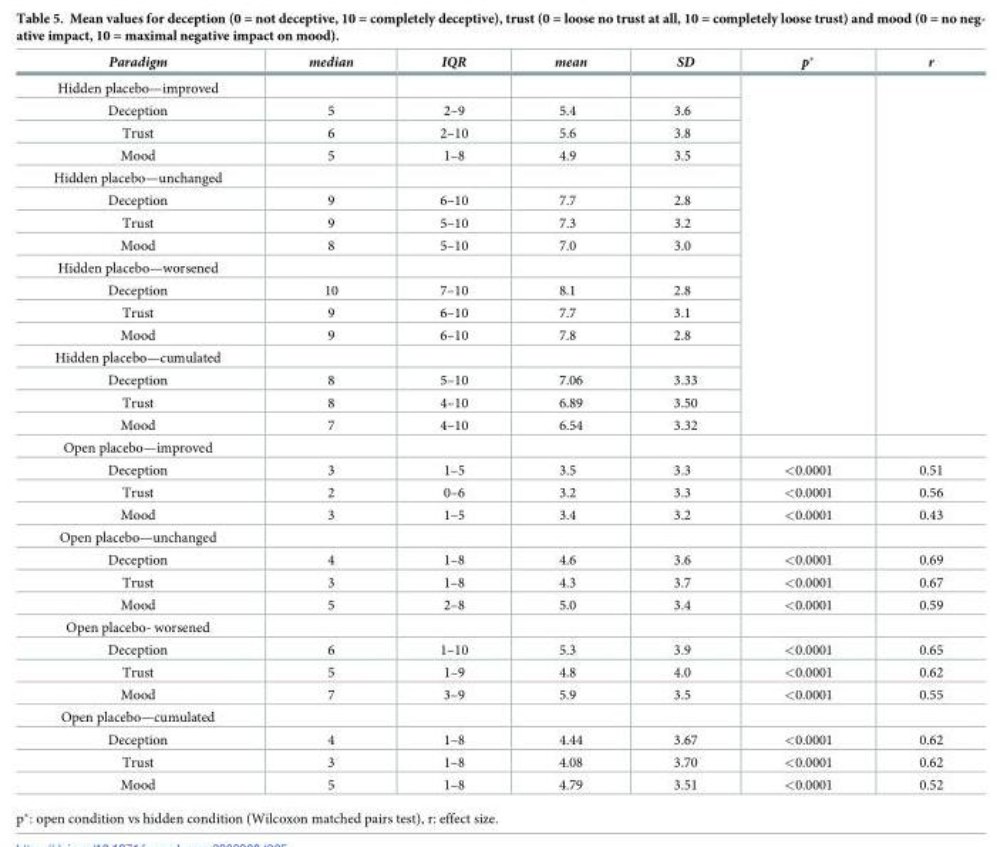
<table><thead><tr><td>Paradigm</td><td>median</td><td>IQR</td><td>mean</td><td>SD</td><td>p*</td><td>r</td></tr></thead><tbody><tr><td colspan="5">Hidden placebo—improved</td><td rowspan="16"></td><td rowspan="16"></td></tr><tr><td>Deception</td><td>5</td><td>2–9</td><td>5.4</td><td>3.6</td></tr><tr><td>Trust</td><td>6</td><td>2–10</td><td>5.6</td><td>3.8</td></tr><tr><td>Mood</td><td>5</td><td>1–8</td><td>4.9</td><td>3.5</td></tr><tr><td colspan="5">Hidden placebo—unchanged</td></tr><tr><td>Deception</td><td>9</td><td>6–10</td><td>7.7</td><td>2.8</td></tr><tr><td>Trust</td><td>9</td><td>5–10</td><td>7.3</td><td>3.2</td></tr><tr><td>Mood</td><td>8</td><td>5–10</td><td>7.0</td><td>3.0</td></tr><tr><td colspan="5">Hidden placebo—worsened</td></tr><tr><td>Deception</td><td>10</td><td>7–10</td><td>8.1</td><td>2.8</td></tr><tr><td>Trust</td><td>9</td><td>6–10</td><td>7.7</td><td>3.1</td></tr><tr><td>Mood</td><td>9</td><td>6–10</td><td>7.8</td><td>2.8</td></tr><tr><td colspan="5">Hidden placebo—cumulated</td></tr><tr><td>Deception</td><td>8</td><td>5–10</td><td>7.06</td><td>3.33</td></tr><tr><td>Trust</td><td>8</td><td>4–10</td><td>6.89</td><td>3.50</td></tr><tr><td>Mood</td><td>7</td><td>4–10</td><td>6.54</td><td>3.32</td></tr><tr><td colspan="7">Open placebo—improved</td></tr><tr><td>Deception</td><td>3</td><td>1–5</td><td>3.5</td><td>3.3</td><td>&lt;0.0001</td><td>0.51</td></tr><tr><td>Trust</td><td>2</td><td>0–6</td><td>3.2</td><td>3.3</td><td>&lt;0.0001</td><td>0.56</td></tr><tr><td>Mood</td><td>3</td><td>1–5</td><td>3.4</td><td>3.2</td><td>&lt;0.0001</td><td>0.43</td></tr><tr><td colspan="7">Open placebo—unchanged</td></tr><tr><td>Deception</td><td>4</td><td>1–8</td><td>4.6</td><td>3.6</td><td>&lt;0.0001</td><td>0.69</td></tr><tr><td>Trust</td><td>3</td><td>1–8</td><td>4.3</td><td>3.7</td><td>&lt;0.0001</td><td>0.67</td></tr><tr><td>Mood</td><td>5</td><td>2–8</td><td>5.0</td><td>3.4</td><td>&lt;0.0001</td><td>0.59</td></tr><tr><td colspan="7">Open placebo- worsened</td></tr><tr><td>Deception</td><td>6</td><td>1–10</td><td>5.3</td><td>3.9</td><td>&lt;0.0001</td><td>0.65</td></tr><tr><td>Trust</td><td>5</td><td>1–9</td><td>4.8</td><td>4.0</td><td>&lt;0.0001</td><td>0.62</td></tr><tr><td>Mood</td><td>7</td><td>3–9</td><td>5.9</td><td>3.5</td><td>&lt;0.0001</td><td>0.55</td></tr><tr><td colspan="7">Open placebo—cumulated</td></tr><tr><td>Deception</td><td>4</td><td>1–8</td><td>4.44</td><td>3.67</td><td>&lt;0.0001</td><td>0.62</td></tr><tr><td>Trust</td><td>3</td><td>1–8</td><td>4.08</td><td>3.70</td><td>&lt;0.0001</td><td>0.62</td></tr><tr><td>Mood</td><td>5</td><td>1–8</td><td>4.79</td><td>3.51</td><td>&lt;0.0001</td><td>0.52</td></tr></tbody></table>